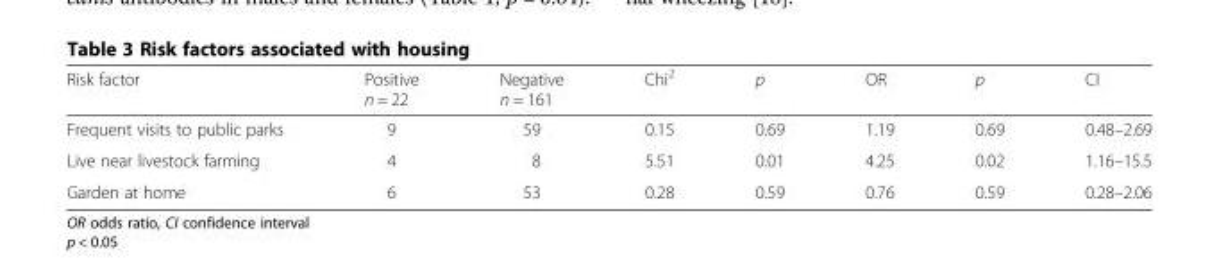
<table><thead><tr><td>Risk factor</td><td>Positive n = 22</td><td>Negative n = 161</td><td>Chi<sup>2</sup></td><td>p</td><td>OR</td><td>p</td><td>CI</td></tr></thead><tbody><tr><td>Frequent visits to public parks</td><td>9</td><td>59</td><td>0.15</td><td>0.69</td><td>1.19</td><td>0.69</td><td>0.48–2.69</td></tr><tr><td>Live near livestock farming</td><td>4</td><td>8</td><td>5.51</td><td>0.01</td><td>4.25</td><td>0.02</td><td>1.16–15.5</td></tr><tr><td>Garden at home</td><td>6</td><td>53</td><td>0.28</td><td>0.59</td><td>0.76</td><td>0.59</td><td>0.28–2.06</td></tr></tbody></table>